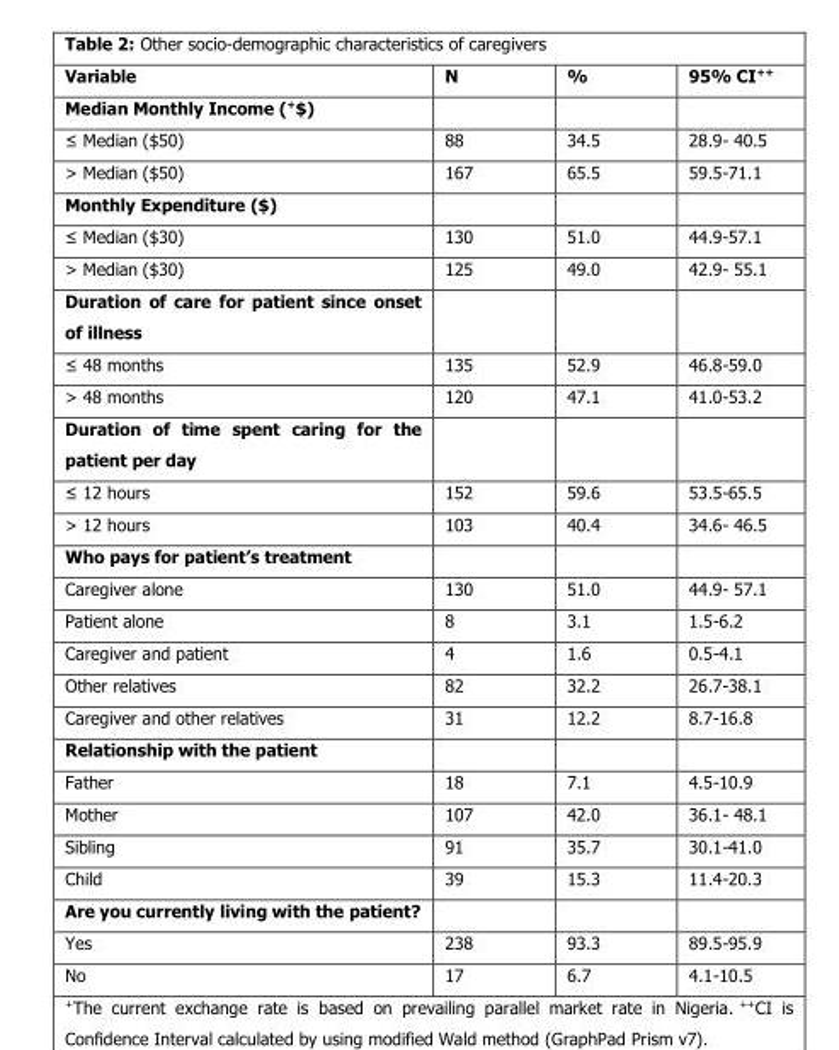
<table><thead><tr><td>Variable</td><td>N</td><td>%</td><td>95% CI<sup>++</sup></td></tr></thead><tbody><tr><td colspan="4">Median Monthly Income (<sup>+</sup>$)</td></tr><tr><td>≤ Median ($50)</td><td>88</td><td>34.5</td><td>28.9- 40.5</td></tr><tr><td>&gt; Median ($50)</td><td>167</td><td>65.5</td><td>59.5-71.1</td></tr><tr><td colspan="4">Monthly Expenditure ($)</td></tr><tr><td>≤ Median ($30)</td><td>130</td><td>51.0</td><td>44.9-57.1</td></tr><tr><td>&gt; Median ($30)</td><td>125</td><td>49.0</td><td>42.9- 55.1</td></tr><tr><td colspan="4">Duration of care for patient since onset of illness</td></tr><tr><td>≤ 48 months</td><td>135</td><td>52.9</td><td>46.8-59.0</td></tr><tr><td>&gt; 48 months</td><td>120</td><td>47.1</td><td>41.0-53.2</td></tr><tr><td colspan="4">Duration of time spent caring for the patient per day</td></tr><tr><td>≤ 12 hours</td><td>152</td><td>59.6</td><td>53.5-65.5</td></tr><tr><td>&gt; 12 hours</td><td>103</td><td>40.4</td><td>34.6- 46.5</td></tr><tr><td colspan="4">Who pays for patient’s treatment</td></tr><tr><td>Caregiver alone</td><td>130</td><td>51.0</td><td>44.9- 57.1</td></tr><tr><td>Patient alone</td><td>8</td><td>3.1</td><td>1.5-6.2</td></tr><tr><td>Caregiver and patient</td><td>4</td><td>1.6</td><td>0.5-4.1</td></tr><tr><td>Other relatives</td><td>82</td><td>32.2</td><td>26.7-38.1</td></tr><tr><td>Caregiver and other relatives</td><td>31</td><td>12.2</td><td>8.7-16.8</td></tr><tr><td colspan="4">Relationship with the patient</td></tr><tr><td>Father</td><td>18</td><td>7.1</td><td>4.5-10.9</td></tr><tr><td>Mother</td><td>107</td><td>42.0</td><td>36.1- 48.1</td></tr><tr><td>Sibling</td><td>91</td><td>35.7</td><td>30.1-41.0</td></tr><tr><td>Child</td><td>39</td><td>15.3</td><td>11.4-20.3</td></tr><tr><td colspan="4">Are you currently living with the patient?</td></tr><tr><td>Yes</td><td>238</td><td>93.3</td><td>89.5-95.9</td></tr><tr><td>No</td><td>17</td><td>6.7</td><td>4.1-10.5</td></tr></tbody></table>